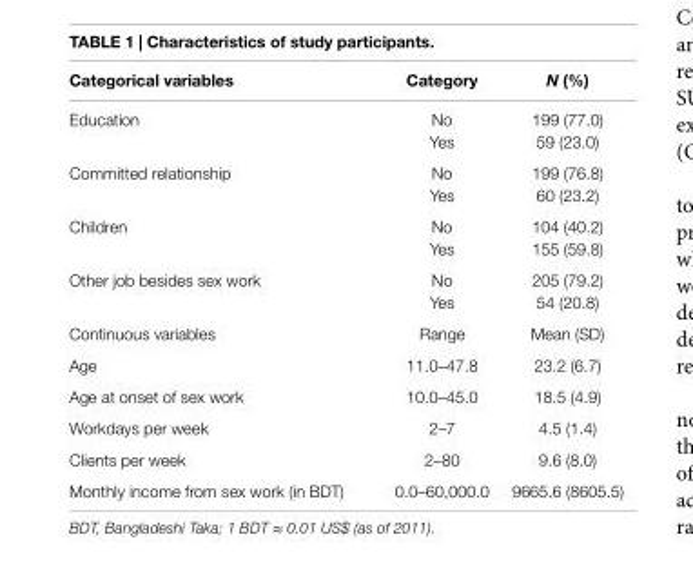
<table><thead><tr><td>categorical variables</td><td>category</td><td>N (%)</td></tr></thead><tbody><tr><td rowspan="2">Education</td><td>No</td><td>199 (77.0)</td></tr><tr><td>Yes</td><td>59 (23.0)</td></tr><tr><td rowspan="2">Committed relationship</td><td>No</td><td>199 (76.8)</td></tr><tr><td>Yes</td><td>60 (23.2)</td></tr><tr><td rowspan="2">Children</td><td>No</td><td>104 (40.2)</td></tr><tr><td>Yes</td><td>155 (59.8)</td></tr><tr><td rowspan="2">Other job besides sex work</td><td>No</td><td>205 (79.2)</td></tr><tr><td>Yes</td><td>54 (20.8)</td></tr><tr><td>Continuous variables</td><td>Range</td><td>Mean (SD)</td></tr><tr><td>Age</td><td>11.0–47.8</td><td>23.2 (6.7)</td></tr><tr><td>Age at onset of sex work</td><td>10.0–45.0</td><td>18.5 (4.9)</td></tr><tr><td>Workdays per week</td><td>2–7</td><td>4.5 (1.4)</td></tr><tr><td>Clients per week</td><td>2–80</td><td>9.6 (8.0)</td></tr><tr><td>Monthly income from sex work (in BDT)</td><td>0.0–60,000.0</td><td>9665.6 (8605.5)</td></tr></tbody></table>